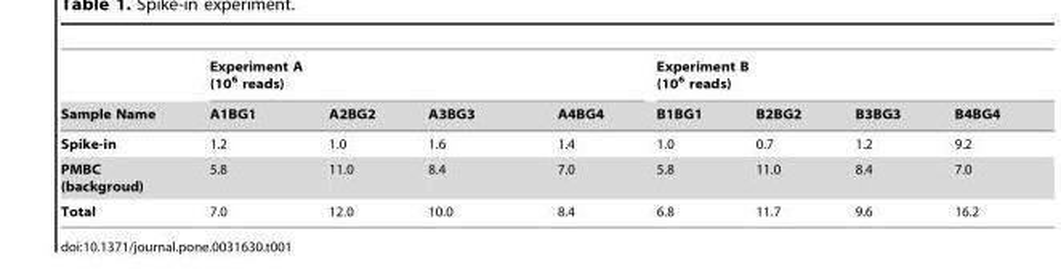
<table><thead><tr><td rowspan="2">Sample Name</td><td colspan="4">Experiment A (10<sup>6</sup> reads)</td><td colspan="4">Experiment B (10<sup>6</sup> reads)</td></tr><tr><td>A1BG1</td><td>A2BG2</td><td>A3BG3</td><td>A4BG4</td><td>B1BG1</td><td>B2BG2</td><td>B3BG3</td><td>B4BG4</td></tr></thead><tbody><tr><td>Spike-in</td><td>1.2</td><td>1.0</td><td>1.6</td><td>1.4</td><td>1.0</td><td>0.7</td><td>1.2</td><td>9.2</td></tr><tr><td>PMBC (backgroud)</td><td>5.8</td><td>11.0</td><td>8.4</td><td>7.0</td><td>5.8</td><td>11.0</td><td>8.4</td><td>7.0</td></tr><tr><td>Total</td><td>7.0</td><td>12.0</td><td>10.0</td><td>8.4</td><td>6.8</td><td>11.7</td><td>9.6</td><td>16.2</td></tr></tbody></table>